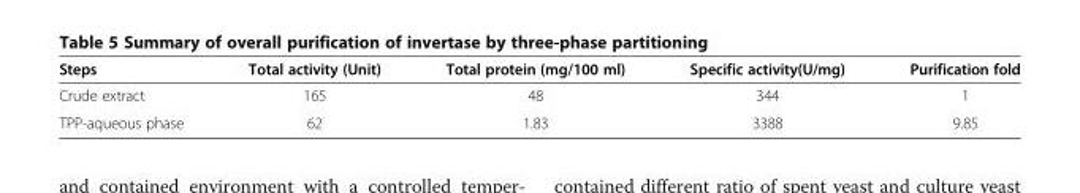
<table><thead><tr><td>Steps</td><td>Total activity (Unit)</td><td>Total protein (mg/100 ml)</td><td>Specific activity(U/mg)</td><td>Purification fold</td></tr></thead><tbody><tr><td>Crude extract</td><td>165</td><td>48</td><td>344</td><td>1</td></tr><tr><td>TPP-aqueous phase</td><td>62</td><td>1.83</td><td>3388</td><td>9.85</td></tr></tbody></table>